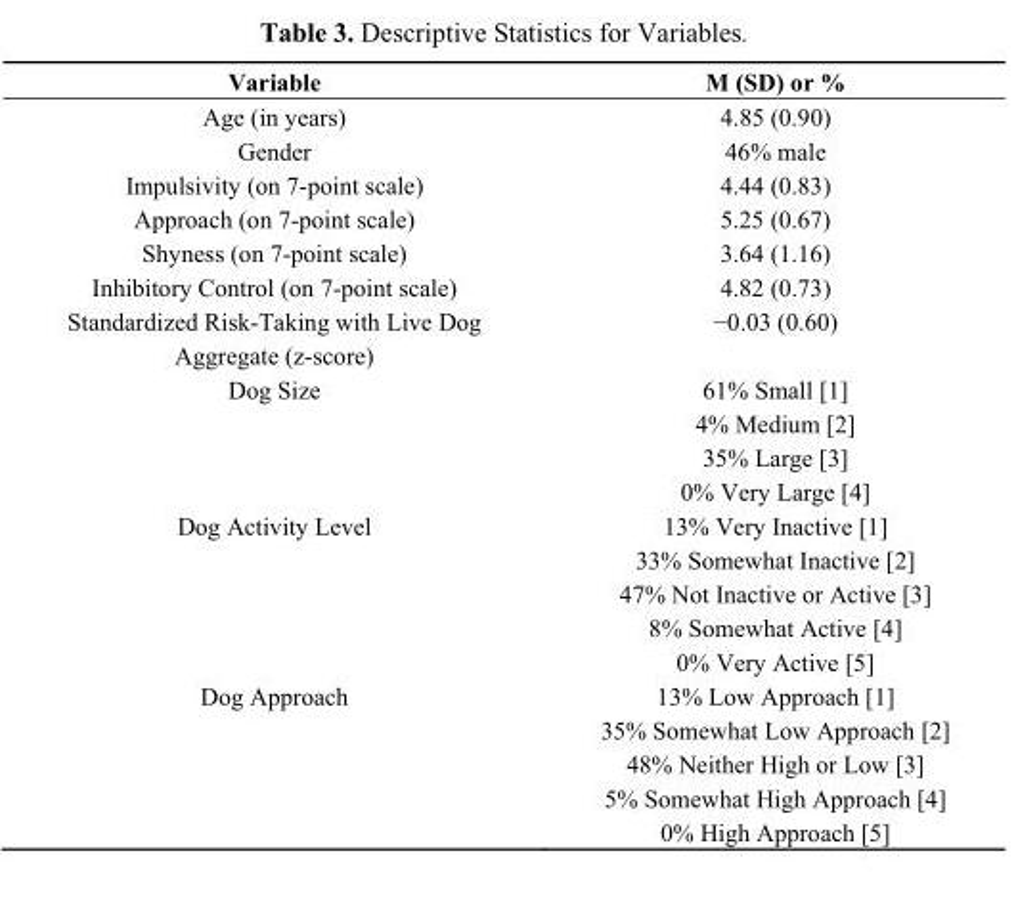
<table><thead><tr><td>Variable</td><td>M (SD) or %</td></tr></thead><tbody><tr><td>Age (in years)</td><td>4.85 (0.90)</td></tr><tr><td>Gender</td><td>46% male</td></tr><tr><td>Impulsivity (on 7-point scale)</td><td>4.44 (0.83)</td></tr><tr><td>Approach (on 7-point scale)</td><td>5.25 (0.67)</td></tr><tr><td>Shyness (on 7-point scale)</td><td>3.64 (1.16)</td></tr><tr><td>Inhibitory Control (on 7-point scale)</td><td>4.82 (0.73)</td></tr><tr><td>Standardized Risk-Taking with Live Dog Aggregate (z-score)</td><td>−0.03 (0.60)</td></tr><tr><td rowspan="4">Dog Size</td><td>61% Small [1]</td></tr><tr><td>4% Medium [2]</td></tr><tr><td>35% Large [3]</td></tr><tr><td>0% Very Large [4]</td></tr><tr><td rowspan="5">Dog Activity Level</td><td>13% Very Inactive [1]</td></tr><tr><td>33% Somewhat Inactive [2]</td></tr><tr><td>47% Not Inactive or Active [3]</td></tr><tr><td>8% Somewhat Active [4]</td></tr><tr><td>0% Very Active [5]</td></tr><tr><td rowspan="5">Dog Approach</td><td>13% Low Approach [1]</td></tr><tr><td>35% Somewhat Low Approach [2]</td></tr><tr><td>48% Neither High or Low [3]</td></tr><tr><td>5% Somewhat High Approach [4]</td></tr><tr><td>0% High Approach [5]</td></tr></tbody></table>